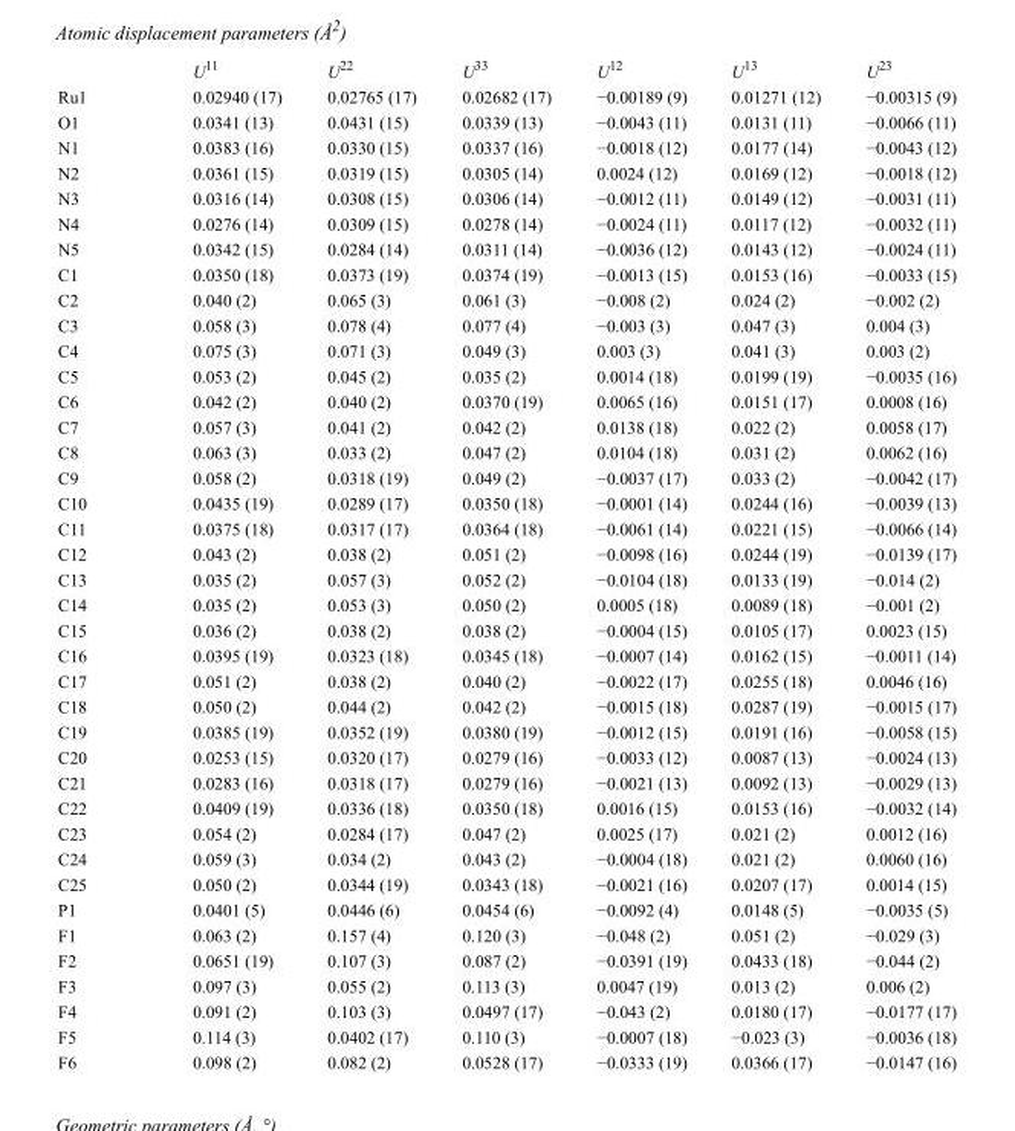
<table><thead><tr><td></td><td>U<sup>11</sup></td><td>U<sup>22</sup></td><td>U<sup>33</sup></td><td>U<sup>12</sup></td><td>U<sup>13</sup></td><td>U<sup>23</sup></td></tr></thead><tbody><tr><td>Ru1</td><td>0.02940 (17)</td><td>0.02765 (17)</td><td>0.02682 (17)</td><td>−0.00189 (9)</td><td>0.01271 (12)</td><td>−0.00315 (9)</td></tr><tr><td>O1</td><td>0.0341 (13)</td><td>0.0431 (15)</td><td>0.0339 (13)</td><td>−0.0043 (11)</td><td>0.0131 (11)</td><td>−0.0066 (11)</td></tr><tr><td>N1</td><td>0.0383 (16)</td><td>0.0330 (15)</td><td>0.0337 (16)</td><td>−0.0018 (12)</td><td>0.0177 (14)</td><td>−0.0043 (12)</td></tr><tr><td>N2</td><td>0.0361 (15)</td><td>0.0319 (15)</td><td>0.0305 (14)</td><td>0.0024 (12)</td><td>0.0169 (12)</td><td>−0.0018 (12)</td></tr><tr><td>N3</td><td>0.0316 (14)</td><td>0.0308 (15)</td><td>0.0306 (14)</td><td>−0.0012 (11)</td><td>0.0149 (12)</td><td>−0.0031 (11)</td></tr><tr><td>N4</td><td>0.0276 (14)</td><td>0.0309 (15)</td><td>0.0278 (14)</td><td>−0.0024 (11)</td><td>0.0117 (12)</td><td>−0.0032 (11)</td></tr><tr><td>N5</td><td>0.0342 (15)</td><td>0.0284 (14)</td><td>0.0311 (14)</td><td>−0.0036 (12)</td><td>0.0143 (12)</td><td>−0.0024 (11)</td></tr><tr><td>C1</td><td>0.0350 (18)</td><td>0.0373 (19)</td><td>0.0374 (19)</td><td>−0.0013 (15)</td><td>0.0153 (16)</td><td>−0.0033 (15)</td></tr><tr><td>C2</td><td>0.040 (2)</td><td>0.065 (3)</td><td>0.061 (3)</td><td>−0.008 (2)</td><td>0.024 (2)</td><td>−0.002 (2)</td></tr><tr><td>C3</td><td>0.058 (3)</td><td>0.078 (4)</td><td>0.077 (4)</td><td>−0.003 (3)</td><td>0.047 (3)</td><td>0.004 (3)</td></tr><tr><td>C4</td><td>0.075 (3)</td><td>0.071 (3)</td><td>0.049 (3)</td><td>0.003 (3)</td><td>0.041 (3)</td><td>0.003 (2)</td></tr><tr><td>C5</td><td>0.053 (2)</td><td>0.045 (2)</td><td>0.035 (2)</td><td>0.0014 (18)</td><td>0.0199 (19)</td><td>−0.0035 (16)</td></tr><tr><td>C6</td><td>0.042 (2)</td><td>0.040 (2)</td><td>0.0370 (19)</td><td>0.0065 (16)</td><td>0.0151 (17)</td><td>0.0008 (16)</td></tr><tr><td>C7</td><td>0.057 (3)</td><td>0.041 (2)</td><td>0.042 (2)</td><td>0.0138 (18)</td><td>0.022 (2)</td><td>0.0058 (17)</td></tr><tr><td>C8</td><td>0.063 (3)</td><td>0.033 (2)</td><td>0.047 (2)</td><td>0.0104 (18)</td><td>0.031 (2)</td><td>0.0062 (16)</td></tr><tr><td>C9</td><td>0.058 (2)</td><td>0.0318 (19)</td><td>0.049 (2)</td><td>−0.0037 (17)</td><td>0.033 (2)</td><td>−0.0042 (17)</td></tr><tr><td>C10</td><td>0.0435 (19)</td><td>0.0289 (17)</td><td>0.0350 (18)</td><td>−0.0001 (14)</td><td>0.0244 (16)</td><td>−0.0039 (13)</td></tr><tr><td>C11</td><td>0.0375 (18)</td><td>0.0317 (17)</td><td>0.0364 (18)</td><td>−0.0061 (14)</td><td>0.0221 (15)</td><td>−0.0066 (14)</td></tr><tr><td>C12</td><td>0.043 (2)</td><td>0.038 (2)</td><td>0.051 (2)</td><td>−0.0098 (16)</td><td>0.0244 (19)</td><td>−0.0139 (17)</td></tr><tr><td>C13</td><td>0.035 (2)</td><td>0.057 (3)</td><td>0.052 (2)</td><td>−0.0104 (18)</td><td>0.0133 (19)</td><td>−0.014 (2)</td></tr><tr><td>C14</td><td>0.035 (2)</td><td>0.053 (3)</td><td>0.050 (2)</td><td>0.0005 (18)</td><td>0.0089 (18)</td><td>−0.001 (2)</td></tr><tr><td>C15</td><td>0.036 (2)</td><td>0.038 (2)</td><td>0.038 (2)</td><td>−0.0004 (15)</td><td>0.0105 (17)</td><td>0.0023 (15)</td></tr><tr><td>C16</td><td>0.0395 (19)</td><td>0.0323 (18)</td><td>0.0345 (18)</td><td>−0.0007 (14)</td><td>0.0162 (15)</td><td>−0.0011 (14)</td></tr><tr><td>C17</td><td>0.051 (2)</td><td>0.038 (2)</td><td>0.040 (2)</td><td>−0.0022 (17)</td><td>0.0255 (18)</td><td>0.0046 (16)</td></tr><tr><td>C18</td><td>0.050 (2)</td><td>0.044 (2)</td><td>0.042 (2)</td><td>−0.0015 (18)</td><td>0.0287 (19)</td><td>−0.0015 (17)</td></tr><tr><td>C19</td><td>0.0385 (19)</td><td>0.0352 (19)</td><td>0.0380 (19)</td><td>−0.0012 (15)</td><td>0.0191 (16)</td><td>−0.0058 (15)</td></tr><tr><td>C20</td><td>0.0253 (15)</td><td>0.0320 (17)</td><td>0.0279 (16)</td><td>−0.0033 (12)</td><td>0.0087 (13)</td><td>−0.0024 (13)</td></tr><tr><td>C21</td><td>0.0283 (16)</td><td>0.0318 (17)</td><td>0.0279 (16)</td><td>−0.0021 (13)</td><td>0.0092 (13)</td><td>−0.0029 (13)</td></tr><tr><td>C22</td><td>0.0409 (19)</td><td>0.0336 (18)</td><td>0.0350 (18)</td><td>0.0016 (15)</td><td>0.0153 (16)</td><td>−0.0032 (14)</td></tr><tr><td>C23</td><td>0.054 (2)</td><td>0.0284 (17)</td><td>0.047 (2)</td><td>0.0025 (17)</td><td>0.021 (2)</td><td>0.0012 (16)</td></tr><tr><td>C24</td><td>0.059 (3)</td><td>0.034 (2)</td><td>0.043 (2)</td><td>−0.0004 (18)</td><td>0.021 (2)</td><td>0.0060 (16)</td></tr><tr><td>C25</td><td>0.050 (2)</td><td>0.0344 (19)</td><td>0.0343 (18)</td><td>−0.0021 (16)</td><td>0.0207 (17)</td><td>0.0014 (15)</td></tr><tr><td>P1</td><td>0.0401 (5)</td><td>0.0446 (6)</td><td>0.0454 (6)</td><td>−0.0092 (4)</td><td>0.0148 (5)</td><td>−0.0035 (5)</td></tr><tr><td>F1</td><td>0.063 (2)</td><td>0.157 (4)</td><td>0.120 (3)</td><td>−0.048 (2)</td><td>0.051 (2)</td><td>−0.029 (3)</td></tr><tr><td>F2</td><td>0.0651 (19)</td><td>0.107 (3)</td><td>0.087 (2)</td><td>−0.0391 (19)</td><td>0.0433 (18)</td><td>−0.044 (2)</td></tr><tr><td>F3</td><td>0.097 (3)</td><td>0.055 (2)</td><td>0.113 (3)</td><td>0.0047 (19)</td><td>0.013 (2)</td><td>0.006 (2)</td></tr><tr><td>F4</td><td>0.091 (2)</td><td>0.103 (3)</td><td>0.0497 (17)</td><td>−0.043 (2)</td><td>0.0180 (17)</td><td>−0.0177 (17)</td></tr><tr><td>F5</td><td>0.114 (3)</td><td>0.0402 (17)</td><td>0.110 (3)</td><td>−0.0007 (18)</td><td>−0.023 (3)</td><td>−0.0036 (18)</td></tr><tr><td>F6</td><td>0.098 (2)</td><td>0.082 (2)</td><td>0.0528 (17)</td><td>−0.0333 (19)</td><td>0.0366 (17)</td><td>−0.0147 (16)</td></tr></tbody></table>